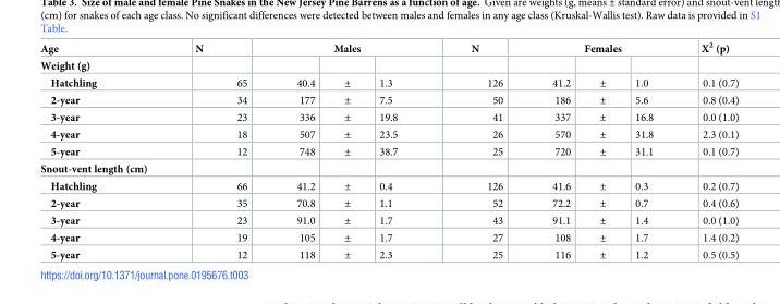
<table><thead><tr><td rowspan="2">Age Weight (g)</td><td rowspan="2">N</td><td colspan="3">Males</td><td rowspan="2">N</td><td colspan="3">Females</td><td rowspan="2">X<sup>2</sup> (p)</td></tr><tr><td></td><td></td><td></td><td></td><td></td><td></td></tr></thead><tbody><tr><td>Hatchling</td><td>65</td><td>40.4</td><td>±</td><td>1.3</td><td>126</td><td>41.2</td><td>±</td><td>1.0</td><td>0.1 (0.7)</td></tr><tr><td>2-year</td><td>34</td><td>177</td><td>±</td><td>7.5</td><td>50</td><td>186</td><td>±</td><td>5.6</td><td>0.8 (0.4)</td></tr><tr><td>3-year</td><td>23</td><td>336</td><td>±</td><td>19.8</td><td>41</td><td>337</td><td>±</td><td>16.8</td><td>0.0 (1.0)</td></tr><tr><td>4-year</td><td>18</td><td>507</td><td>±</td><td>23.5</td><td>26</td><td>570</td><td>±</td><td>31.8</td><td>2.3 (0.1)</td></tr><tr><td>5-year</td><td>12</td><td>748</td><td>±</td><td>38.7</td><td>25</td><td>720</td><td>±</td><td>31.1</td><td>0.1 (0.7)</td></tr><tr><td colspan="10">Snout-vent length (cm)</td></tr><tr><td>Hatchling</td><td>66</td><td>41.2</td><td>±</td><td>0.4</td><td>126</td><td>41.6</td><td>±</td><td>0.3</td><td>0.2 (0.7)</td></tr><tr><td>2-year</td><td>35</td><td>70.8</td><td>±</td><td>1.1</td><td>52</td><td>72.2</td><td>±</td><td>0.7</td><td>0.4 (0.6)</td></tr><tr><td>3-year</td><td>23</td><td>91.0</td><td>±</td><td>1.7</td><td>43</td><td>91.1</td><td>±</td><td>1.4</td><td>0.0 (1.0)</td></tr><tr><td>4-year</td><td>19</td><td>105</td><td>±</td><td>1.7</td><td>27</td><td>108</td><td>±</td><td>1.7</td><td>1.4 (0.2)</td></tr><tr><td>5-year</td><td>12</td><td>118</td><td>±</td><td>2.3</td><td>25</td><td>116</td><td>±</td><td>1.2</td><td>0.5 (0.5)</td></tr></tbody></table>